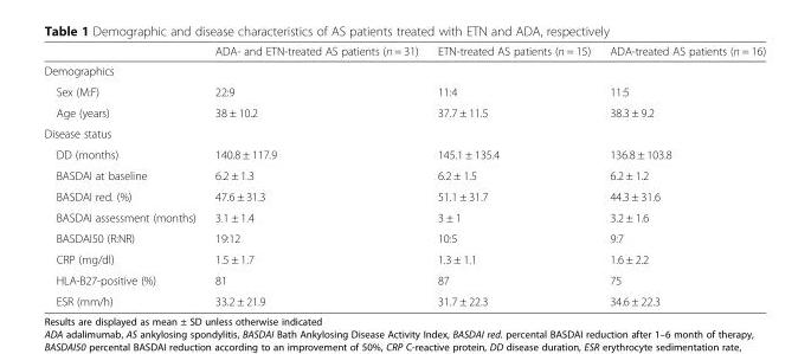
<table><thead><tr><td></td><td>ADA- and ETN-treated AS patients (n = 31)</td><td>ETN-treated AS patients (n = 15)</td><td>ADA-treated AS patients (n = 16)</td></tr></thead><tbody><tr><td colspan="4">Demographics</td></tr><tr><td>Sex (M:F)</td><td>22:9</td><td>11:4</td><td>11:5</td></tr><tr><td>Age (years)</td><td>38 ± 10.2</td><td>37.7 ± 11.5</td><td>38.3 ± 9.2</td></tr><tr><td colspan="4">Disease status</td></tr><tr><td>DD (months)</td><td>140.8 ± 117.9</td><td>145.1 ± 135.4</td><td>136.8 ± 103.8</td></tr><tr><td>BASDAI at baseline</td><td>6.2 ± 1.3</td><td>6.2 ± 1.5</td><td>6.2 ± 1.2</td></tr><tr><td>BASDAI red. (%)</td><td>47.6 ± 31.3</td><td>51.1 ± 31.7</td><td>44.3 ± 31.6</td></tr><tr><td>BASDAI assessment (months)</td><td>3.1 ± 1.4</td><td>3 ± 1</td><td>3.2 ± 1.6</td></tr><tr><td>BASDAI50 (R:NR)</td><td>19:12</td><td>10:5</td><td>9:7</td></tr><tr><td>CRP (mg/dl)</td><td>1.5 ± 1.7</td><td>1.3 ± 1.1</td><td>1.6 ± 2.2</td></tr><tr><td>HLA-B27-positive (%)</td><td>81</td><td>87</td><td>75</td></tr><tr><td>ESR (mm/h)</td><td>33.2 ± 21.9</td><td>31.7 ± 22.3</td><td>34.6 ± 22.3</td></tr></tbody></table>